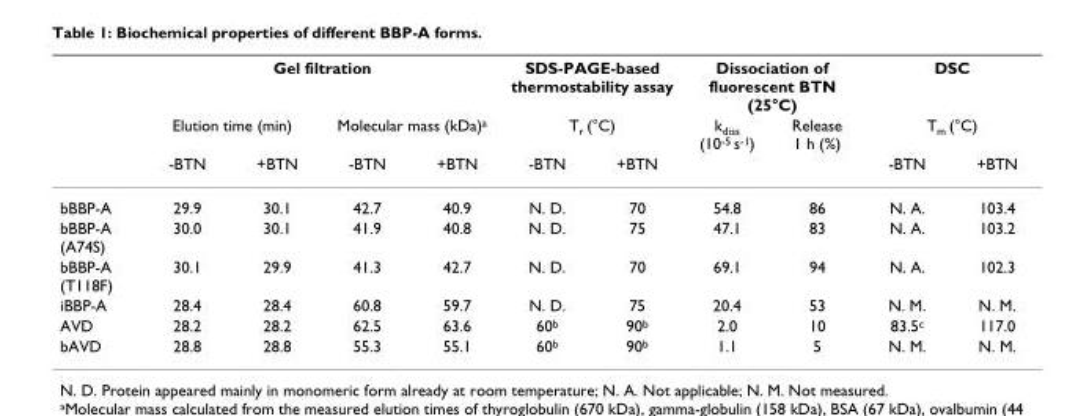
<table><thead><tr><td rowspan="3"></td><td colspan="4">Gel filtration</td><td rowspan="2" colspan="2">SDS-PAGE-based thermostability assay T<sub>r</sub> (°C)</td><td colspan="2">Dissociation of fluorescent BTN (25°C)</td><td rowspan="2" colspan="2">DSC T<sub>m</sub> (°C)</td></tr><tr><td colspan="2">Elution time (min)</td><td colspan="2">Molecular mass (kDa)<sup>a</sup></td><td rowspan="2">k<sub>diss</sub> (10<sup>-5</sup> s<sup>-1</sup>)</td><td rowspan="2">Release 1 h (%)</td></tr><tr><td>-BTN</td><td>+BTN</td><td>-BTN</td><td>+BTN</td><td>-BTN</td><td>+BTN</td><td>-BTN</td><td>+BTN</td></tr></thead><tbody><tr><td>bBBP-A</td><td>29.9</td><td>30.1</td><td>42.7</td><td>40.9</td><td>N. D.</td><td>70</td><td>54.8</td><td>86</td><td>N. A.</td><td>103.4</td></tr><tr><td>bBBP-A (A74S)</td><td>30.0</td><td>30.1</td><td>41.9</td><td>40.8</td><td>N. D.</td><td>75</td><td>47.1</td><td>83</td><td>N. A.</td><td>103.2</td></tr><tr><td>bBBP-A (T118F)</td><td>30.1</td><td>29.9</td><td>41.3</td><td>42.7</td><td>N. D.</td><td>70</td><td>69.1</td><td>94</td><td>N. A.</td><td>102.3</td></tr><tr><td>iBBP-A</td><td>28.4</td><td>28.4</td><td>60.8</td><td>59.7</td><td>N. D.</td><td>75</td><td>20.4</td><td>53</td><td>N. M.</td><td>N. M.</td></tr><tr><td>AVD</td><td>28.2</td><td>28.2</td><td>62.5</td><td>63.6</td><td>60<sup>b</sup></td><td>90<sup>b</sup></td><td>2.0</td><td>10</td><td>83.5<sup>c</sup></td><td>117.0</td></tr><tr><td>bAVD</td><td>28.8</td><td>28.8</td><td>55.3</td><td>55.1</td><td>60<sup>b</sup></td><td>90<sup>b</sup></td><td>1.1</td><td>5</td><td>N. M.</td><td>N. M.</td></tr></tbody></table>